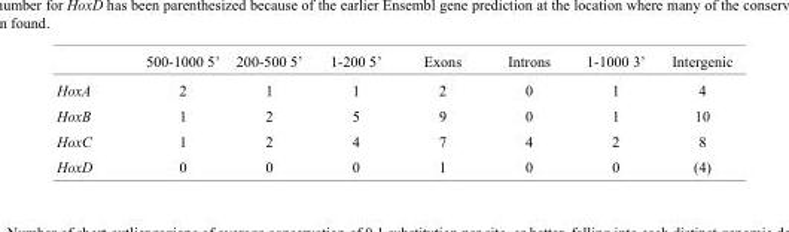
<table><thead><tr><td></td><td>500-1000 5’</td><td>200-500 5’</td><td>1-200 5’</td><td>Exons</td><td>Introns</td><td>1-1000 3’</td><td>Intergenic</td></tr></thead><tbody><tr><td>HoxA</td><td>2</td><td>1</td><td>1</td><td>2</td><td>0</td><td>1</td><td>4</td></tr><tr><td>HoxB</td><td>1</td><td>2</td><td>5</td><td>9</td><td>0</td><td>1</td><td>10</td></tr><tr><td>HoxC</td><td>1</td><td>2</td><td>4</td><td>7</td><td>4</td><td>2</td><td>8</td></tr><tr><td>HoxD</td><td>0</td><td>0</td><td>0</td><td>1</td><td>0</td><td>0</td><td>(4)</td></tr></tbody></table>